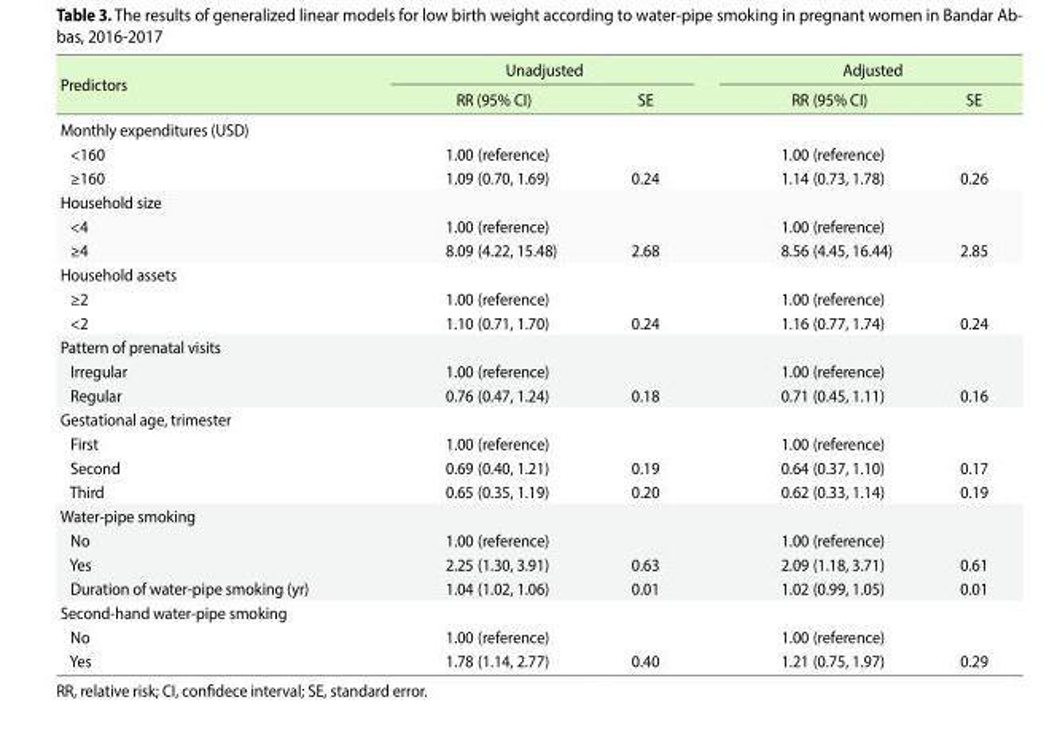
<table><thead><tr><td rowspan="2">Predictors</td><td colspan="2">Unadjusted</td><td colspan="2">Adjusted</td></tr><tr><td>RR (95% CI)</td><td>SE</td><td>RR (95% CI)</td><td>SE</td></tr></thead><tbody><tr><td colspan="5">Monthly expenditures (USD)</td></tr><tr><td>&lt;160</td><td>1.00 (reference)</td><td></td><td>1.00 (reference)</td><td></td></tr><tr><td>≥160</td><td>1.09 (0.70, 1.69)</td><td>0.24</td><td>1.14 (0.73, 1.78)</td><td>0.26</td></tr><tr><td colspan="5">Household size</td></tr><tr><td>&lt;4</td><td>1.00 (reference)</td><td></td><td>1.00 (reference)</td><td></td></tr><tr><td>≥4</td><td>8.09 (4.22, 15.48)</td><td>2.68</td><td>8.56 (4.45, 16.44)</td><td>2.85</td></tr><tr><td colspan="5">Household assets</td></tr><tr><td>≥2</td><td>1.00 (reference)</td><td></td><td>1.00 (reference)</td><td></td></tr><tr><td>&lt;2</td><td>1.10 (0.71, 1.70)</td><td>0.24</td><td>1.16 (0.77, 1.74)</td><td>0.24</td></tr><tr><td colspan="5">Pattern of prenatal visits</td></tr><tr><td>Irregular</td><td>1.00 (reference)</td><td></td><td>1.00 (reference)</td><td></td></tr><tr><td>Regular</td><td>0.76 (0.47, 1.24)</td><td>0.18</td><td>0.71 (0.45, 1.11)</td><td>0.16</td></tr><tr><td colspan="5">Gestational age, trimester</td></tr><tr><td>First</td><td>1.00 (reference)</td><td></td><td>1.00 (reference)</td><td></td></tr><tr><td>Second</td><td>0.69 (0.40, 1.21)</td><td>0.19</td><td>0.64 (0.37, 1.10)</td><td>0.17</td></tr><tr><td>Third</td><td>0.65 (0.35, 1.19)</td><td>0.20</td><td>0.62 (0.33, 1.14)</td><td>0.19</td></tr><tr><td colspan="5">Water-pipe smoking</td></tr><tr><td>No</td><td>1.00 (reference)</td><td></td><td>1.00 (reference)</td><td></td></tr><tr><td>Yes</td><td>2.25 (1.30, 3.91)</td><td>0.63</td><td>2.09 (1.18, 3.71)</td><td>0.61</td></tr><tr><td>Duration of water-pipe smoking (yr)</td><td>1.04 (1.02, 1.06)</td><td>0.01</td><td>1.02 (0.99, 1.05)</td><td>0.01</td></tr><tr><td colspan="5">Second-hand water-pipe smoking</td></tr><tr><td>No</td><td>1.00 (reference)</td><td></td><td>1.00 (reference)</td><td></td></tr><tr><td>Yes</td><td>1.78 (1.14, 2.77)</td><td>0.40</td><td>1.21 (0.75, 1.97)</td><td>0.29</td></tr></tbody></table>